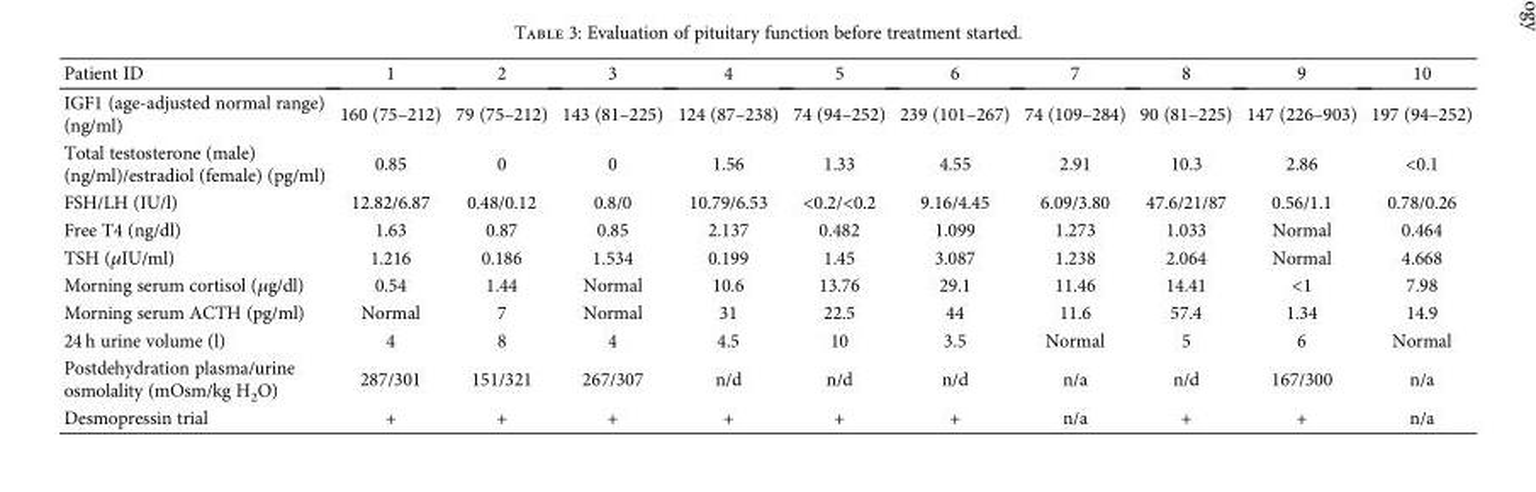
<table><thead><tr><td>Patient ID</td><td>1</td><td>2</td><td>3</td><td>4</td><td>5</td><td>6</td><td>7</td><td>8</td><td>9</td><td>10</td></tr></thead><tbody><tr><td>IGF1 (age-adjusted normal range) (ng/ml)</td><td>160 (75–212)</td><td>79 (75–212)</td><td>143 (81–225)</td><td>124 (87–238)</td><td>74 (94–252)</td><td>239 (101–267)</td><td>74 (109–284)</td><td>90 (81–225)</td><td>147 (226–903)</td><td>197 (94–252)</td></tr><tr><td>Total testosterone (male) (ng/ml)/estradiol (female) (pg/ml)</td><td>0.85</td><td>0</td><td>0</td><td>1.56</td><td>1.33</td><td>4.55</td><td>2.91</td><td>10.3</td><td>2.86</td><td>&lt;0.1</td></tr><tr><td>FSH/LH (IU/l)</td><td>12.82/6.87</td><td>0.48/0.12</td><td>0.8/0</td><td>10.79/6.53</td><td>&lt;0.2/&lt;0.2</td><td>9.16/4.45</td><td>6.09/3.80</td><td>47.6/21/87</td><td>0.56/1.1</td><td>0.78/0.26</td></tr><tr><td>Free T4 (ng/dl)</td><td>1.63</td><td>0.87</td><td>0.85</td><td>2.137</td><td>0.482</td><td>1.099</td><td>1.273</td><td>1.033</td><td>Normal</td><td>0.464</td></tr><tr><td>TSH (μIU/ml)</td><td>1.216</td><td>0.186</td><td>1.534</td><td>0.199</td><td>1.45</td><td>3.087</td><td>1.238</td><td>2.064</td><td>Normal</td><td>4.668</td></tr><tr><td>Morning serum cortisol (μg/dl)</td><td>0.54</td><td>1.44</td><td>Normal</td><td>10.6</td><td>13.76</td><td>29.1</td><td>11.46</td><td>14.41</td><td>&lt;1</td><td>7.98</td></tr><tr><td>Morning serum ACTH (pg/ml)</td><td>Normal</td><td>7</td><td>Normal</td><td>31</td><td>22.5</td><td>44</td><td>11.6</td><td>57.4</td><td>1.34</td><td>14.9</td></tr><tr><td>24 h urine volume (l)</td><td>4</td><td>8</td><td>4</td><td>4.5</td><td>10</td><td>3.5</td><td>Normal</td><td>5</td><td>6</td><td>Normal</td></tr><tr><td>Postdehydration plasma/urine osmolality (mOsm/kg H<sub>2</sub>O)</td><td>287/301</td><td>151/321</td><td>267/307</td><td>n/d</td><td>n/d</td><td>n/d</td><td>n/a</td><td>n/d</td><td>167/300</td><td>n/a</td></tr><tr><td>Desmopressin trial</td><td>+</td><td>+</td><td>+</td><td>+</td><td>+</td><td>+</td><td>n/a</td><td>+</td><td>+</td><td>n/a</td></tr></tbody></table>